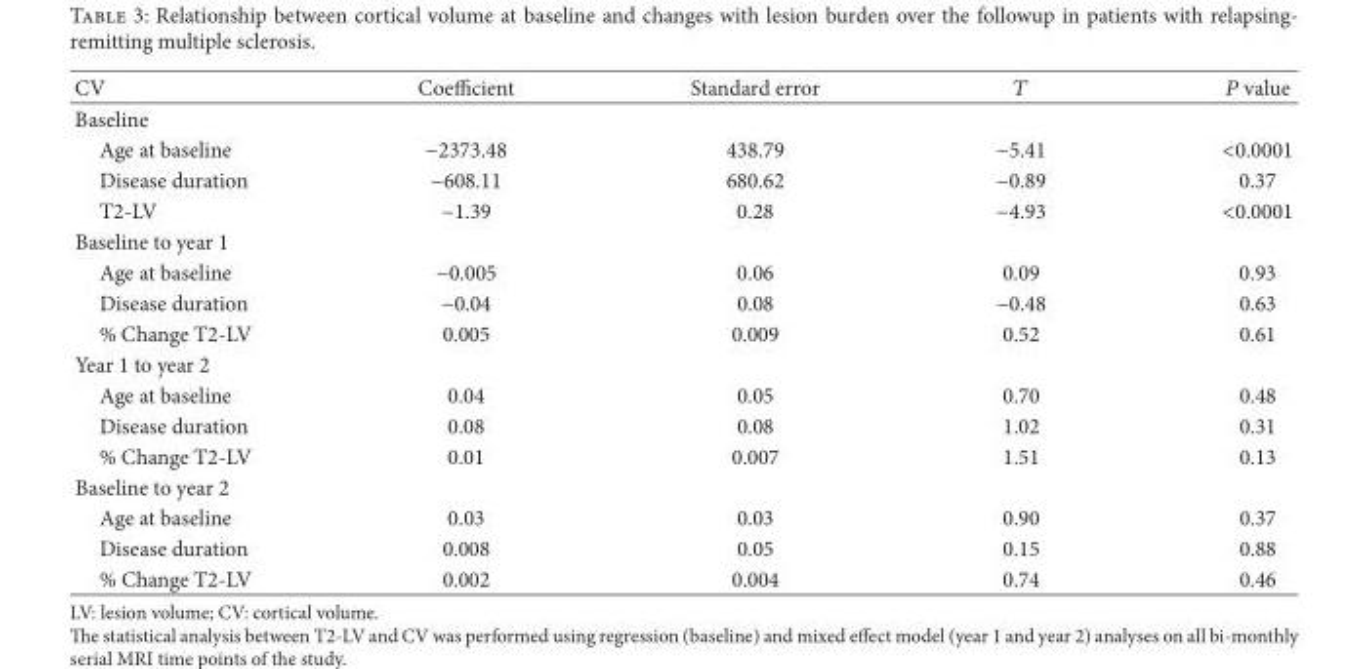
<table><thead><tr><td>CV</td><td>Coefficient</td><td>Standard error</td><td>𝑇𝑇</td><td>𝑃𝑃 value</td></tr></thead><tbody><tr><td colspan="5">Baseline</td></tr><tr><td>Age at baseline</td><td>−2373.48</td><td>438.79</td><td>−5.41</td><td>&lt;0.0001</td></tr><tr><td>Disease duration</td><td>−608.11</td><td>680.62</td><td>−0.89</td><td>0.37</td></tr><tr><td>T2-LV</td><td>−1.39</td><td>0.28</td><td>−4.93</td><td>&lt;0.0001</td></tr><tr><td colspan="5">Baseline to year 1</td></tr><tr><td>Age at baseline</td><td>−0.005</td><td>0.06</td><td>0.09</td><td>0.93</td></tr><tr><td>Disease duration</td><td>−0.04</td><td>0.08</td><td>−0.48</td><td>0.63</td></tr><tr><td>% Change T2-LV</td><td>0.005</td><td>0.009</td><td>0.52</td><td>0.61</td></tr><tr><td colspan="5">Year 1 to year 2</td></tr><tr><td>Age at baseline</td><td>0.04</td><td>0.05</td><td>0.70</td><td>0.48</td></tr><tr><td>Disease duration</td><td>0.08</td><td>0.08</td><td>1.02</td><td>0.31</td></tr><tr><td>% Change T2-LV</td><td>0.01</td><td>0.007</td><td>1.51</td><td>0.13</td></tr><tr><td colspan="5">Baseline to year 2</td></tr><tr><td>Age at baseline</td><td>0.03</td><td>0.03</td><td>0.90</td><td>0.37</td></tr><tr><td>Disease duration</td><td>0.008</td><td>0.05</td><td>0.15</td><td>0.88</td></tr><tr><td>% Change T2-LV</td><td>0.002</td><td>0.004</td><td>0.74</td><td>0.46</td></tr></tbody></table>